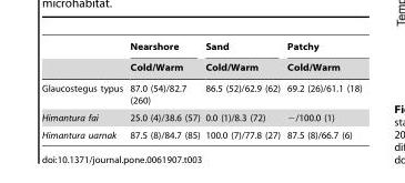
<table><thead><tr><td rowspan="2"></td><td rowspan="2">Nearshore Cold/Warm</td><td rowspan="2">Sand Cold/Warm</td><td rowspan="2">Patchy Cold/Warm</td></tr><tr></tr></thead><tbody><tr><td>Glaucostegus typus</td><td>87.0 (54)/82.7 (260)</td><td>86.5 (52)/62.9 (62)</td><td>69.2 (26)/61.1 (18)</td></tr><tr><td>Himantura fai</td><td>25.0 (4)/38.6 (57)</td><td>0.0 (1)/8.3 (72)</td><td>−/100.0 (1)</td></tr><tr><td>Himantura uarnak</td><td>87.5 (8)/84.7 (85)</td><td>100.0 (7)/77.8 (27)</td><td>87.5 (8)/66.7 (6)</td></tr></tbody></table>